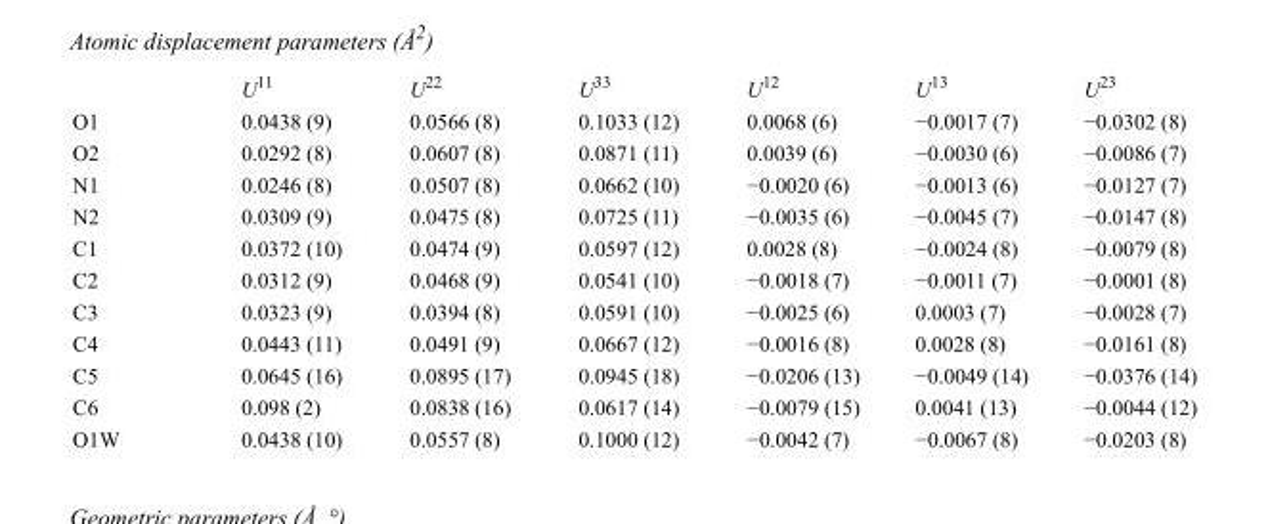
<table><thead><tr><td></td><td>U<sup>11</sup></td><td>U<sup>22</sup></td><td>U<sup>33</sup></td><td>U<sup>12</sup></td><td>U<sup>13</sup></td><td>U<sup>23</sup></td></tr></thead><tbody><tr><td>O1</td><td>0.0438 (9)</td><td>0.0566 (8)</td><td>0.1033 (12)</td><td>0.0068 (6)</td><td>−0.0017 (7)</td><td>−0.0302 (8)</td></tr><tr><td>O2</td><td>0.0292 (8)</td><td>0.0607 (8)</td><td>0.0871 (11)</td><td>0.0039 (6)</td><td>−0.0030 (6)</td><td>−0.0086 (7)</td></tr><tr><td>N1</td><td>0.0246 (8)</td><td>0.0507 (8)</td><td>0.0662 (10)</td><td>−0.0020 (6)</td><td>−0.0013 (6)</td><td>−0.0127 (7)</td></tr><tr><td>N2</td><td>0.0309 (9)</td><td>0.0475 (8)</td><td>0.0725 (11)</td><td>−0.0035 (6)</td><td>−0.0045 (7)</td><td>−0.0147 (8)</td></tr><tr><td>C1</td><td>0.0372 (10)</td><td>0.0474 (9)</td><td>0.0597 (12)</td><td>0.0028 (8)</td><td>−0.0024 (8)</td><td>−0.0079 (8)</td></tr><tr><td>C2</td><td>0.0312 (9)</td><td>0.0468 (9)</td><td>0.0541 (10)</td><td>−0.0018 (7)</td><td>−0.0011 (7)</td><td>−0.0001 (8)</td></tr><tr><td>C3</td><td>0.0323 (9)</td><td>0.0394 (8)</td><td>0.0591 (10)</td><td>−0.0025 (6)</td><td>0.0003 (7)</td><td>−0.0028 (7)</td></tr><tr><td>C4</td><td>0.0443 (11)</td><td>0.0491 (9)</td><td>0.0667 (12)</td><td>−0.0016 (8)</td><td>0.0028 (8)</td><td>−0.0161 (8)</td></tr><tr><td>C5</td><td>0.0645 (16)</td><td>0.0895 (17)</td><td>0.0945 (18)</td><td>−0.0206 (13)</td><td>−0.0049 (14)</td><td>−0.0376 (14)</td></tr><tr><td>C6</td><td>0.098 (2)</td><td>0.0838 (16)</td><td>0.0617 (14)</td><td>−0.0079 (15)</td><td>0.0041 (13)</td><td>−0.0044 (12)</td></tr><tr><td>O1W</td><td>0.0438 (10)</td><td>0.0557 (8)</td><td>0.1000 (12)</td><td>−0.0042 (7)</td><td>−0.0067 (8)</td><td>−0.0203 (8)</td></tr></tbody></table>